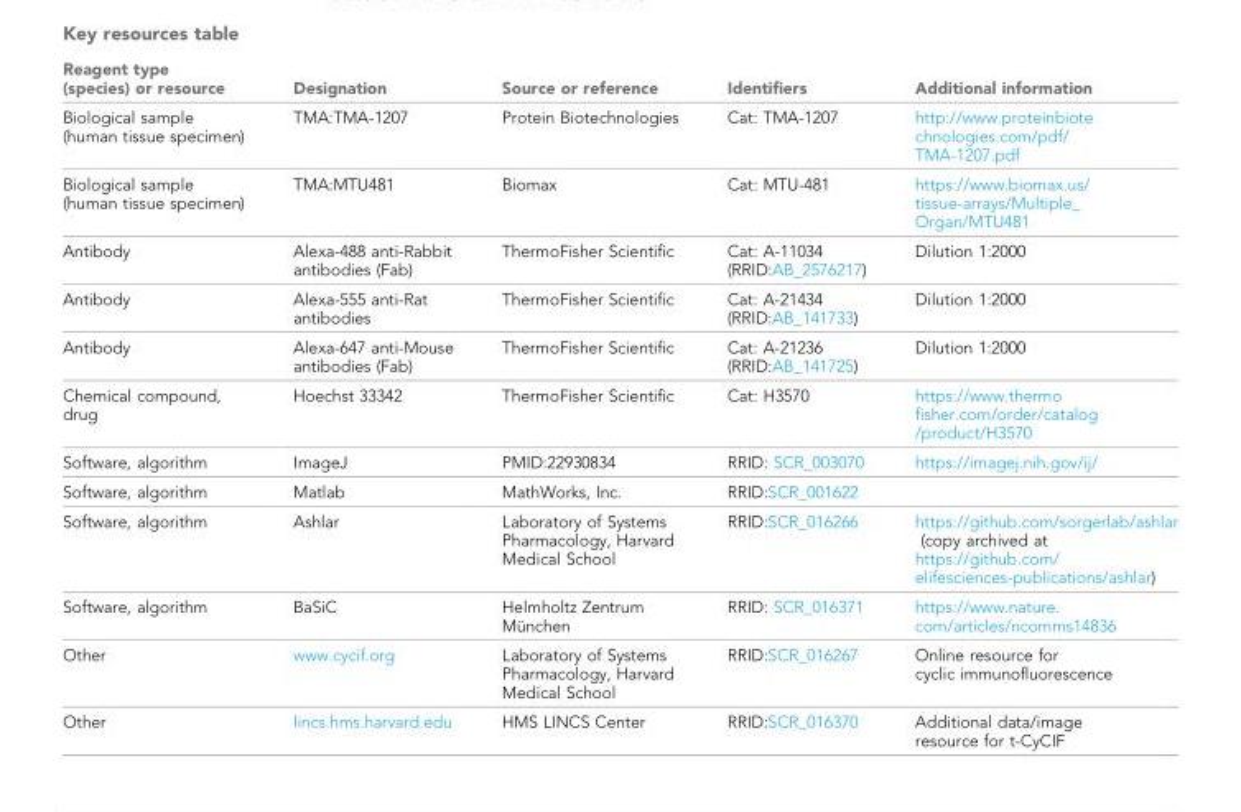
<table><thead><tr><td>Reagent type (species) or resource</td><td>Designation</td><td>Source or reference</td><td>Identifiers</td><td>Additional information</td></tr></thead><tbody><tr><td>Biological sample (human tissue specimen)</td><td>TMA:TMA-1207</td><td>Protein Biotechnologies</td><td>Cat: TMA-1207</td><td>http://www.proteinbiote chnologies.com/pdf/ TMA-1207.pdf</td></tr><tr><td>Biological sample (human tissue specimen)</td><td>TMA:MTU481</td><td>Biomax</td><td>Cat: MTU-481</td><td>https://www.biomax.us/ tissue-arrays/Multiple_ Organ/MTU481</td></tr><tr><td>Antibody</td><td>Alexa-488 anti-Rabbit antibodies (Fab)</td><td>ThermoFisher Scientific</td><td>Cat: A-11034 (RRID:AB_2576217)</td><td>Dilution 1:2000</td></tr><tr><td>Antibody</td><td>Alexa-555 anti-Rat antibodies</td><td>ThermoFisher Scientific</td><td>Cat: A-21434 (RRID:AB_141733)</td><td>Dilution 1:2000</td></tr><tr><td>Antibody</td><td>Alexa-647 anti-Mouse antibodies (Fab)</td><td>ThermoFisher Scientific</td><td>Cat: A-21236 (RRID:AB_141725)</td><td>Dilution 1:2000</td></tr><tr><td>Chemical compound, drug</td><td>Hoechst 33342</td><td>ThermoFisher Scientific</td><td>Cat: H3570</td><td>https://www.thermo fisher.com/order/catalog /product/H3570</td></tr><tr><td>Software, algorithm</td><td>ImageJ</td><td>PMID:22930834</td><td>RRID: SCR_003070</td><td>https://imagej.nih.gov/ij/</td></tr><tr><td>Software, algorithm</td><td>Matlab</td><td>MathWorks, Inc.</td><td>RRID:SCR_001622</td><td></td></tr><tr><td>Software, algorithm</td><td>Ashlar</td><td>Laboratory of Systems Pharmacology, Harvard Medical School</td><td>RRID:SCR_016266</td><td>https://github.com/sorgerlab/ashlar (copy archived at https://github.com/ elifesciences-publications/ashlar)</td></tr><tr><td>Software, algorithm</td><td>BaSiC</td><td>Helmholtz Zentrum Mu¨ nchen</td><td>RRID: SCR_016371</td><td>https://www.nature. com/articles/ncomms14836</td></tr><tr><td>Other</td><td>www.cycif.org</td><td>Laboratory of Systems Pharmacology, Harvard Medical School</td><td>RRID:SCR_016267</td><td>Online resource for cyclic immunofluorescence</td></tr><tr><td>Other</td><td>lincs.hms.harvard.edu</td><td>HMS LINCS Center</td><td>RRID:SCR_016370</td><td>Additional data/image resource for t-CyCIF</td></tr></tbody></table>